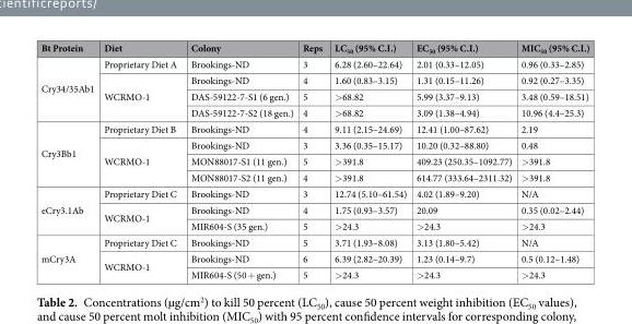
<table><thead><tr><td>Bt Protein</td><td>Diet</td><td>Colony</td><td>Reps</td><td>LC<sub>50</sub> (95% C.I.)</td><td>EC<sub>50</sub> (95% C.I.)</td><td>MIC<sub>50</sub> (95% C.I.)</td></tr></thead><tbody><tr><td rowspan="4">Cry34/35Ab1</td><td>Proprietary Diet A</td><td>Brookings-ND</td><td>3</td><td>6.28 (2.60–22.64)</td><td>2.01 (0.33–12.05)</td><td>0.96 (0.33–2.85)</td></tr><tr><td rowspan="3">WCRMO-1</td><td>Brookings-ND</td><td>4</td><td>1.60 (0.83–3.15)</td><td>1.31 (0.15–11.26)</td><td>0.92 (0.27–3.35)</td></tr><tr><td>DAS-59122-7-S1 (6 gen.)</td><td>5</td><td>&gt;68.82</td><td>5.99 (3.37–9.13)</td><td>3.48 (0.59–18.51)</td></tr><tr><td>DAS-59122-7-S2 (18 gen.)</td><td>4</td><td>&gt;68.82</td><td>3.09 (1.38–4.94)</td><td>10.96 (4.4–25.3)</td></tr><tr><td rowspan="4">Cry3Bb1</td><td>Proprietary Diet B</td><td>Brookings-ND</td><td>4</td><td>9.11 (2.15–24.69)</td><td>12.41 (1.00–87.62)</td><td>2.19</td></tr><tr><td rowspan="3">WCRMO-1</td><td>Brookings-ND</td><td>3</td><td>3.36 (0.35–15.17)</td><td>10.20 (0.32–88.80)</td><td>0.48</td></tr><tr><td>MON88017-S1 (11 gen.)</td><td>5</td><td>&gt;391.8</td><td>409.23 (250.35–1092.77)</td><td>&gt;391.8</td></tr><tr><td>MON88017-S2 (11 gen.)</td><td>4</td><td>&gt;391.8</td><td>614.77 (333.64–2311.32)</td><td>&gt;391.8</td></tr><tr><td rowspan="3">eCry3.1Ab</td><td>Proprietary Diet C</td><td>Brookings-ND</td><td>3</td><td>12.74 (5.10–61.54)</td><td>4.02 (1.89–9.20)</td><td>N/A</td></tr><tr><td rowspan="2">WCRMO-1</td><td>Brookings-ND</td><td>4</td><td>1.75 (0.93–3.57)</td><td>20.09</td><td>0.35 (0.02–2.44)</td></tr><tr><td>MIR604-S (35 gen.)</td><td>5</td><td>&gt;24.3</td><td>&gt;24.3</td><td>&gt;24.3</td></tr><tr><td rowspan="3">mCry3A</td><td>Proprietary Diet C</td><td>Brookings-ND</td><td>5</td><td>3.71 (1.93–8.08)</td><td>3.13 (1.80–5.42)</td><td>N/A</td></tr><tr><td rowspan="2">WCRMO-1</td><td>Brookings-ND</td><td>6</td><td>6.39 (2.82–20.39)</td><td>1.23 (0.14–9.7)</td><td>0.5 (0.12–1.48)</td></tr><tr><td>MIR604-S (50 + gen.)</td><td>5</td><td>&gt;24.3</td><td>&gt;24.3</td><td>&gt;24.3</td></tr></tbody></table>